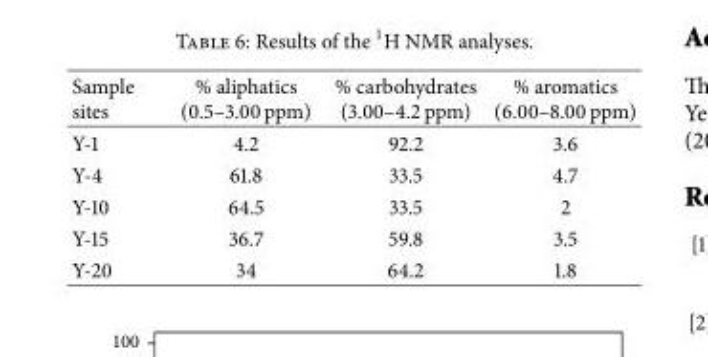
<table><thead><tr><td>Sample sites</td><td>% aliphatics (0.5–3.00 ppm)</td><td>% carbohydrates (3.00–4.2 ppm)</td><td>% aromatics (6.00–8.00 ppm)</td></tr></thead><tbody><tr><td>Y-1</td><td>4.2</td><td>92.2</td><td>3.6</td></tr><tr><td>Y-4</td><td>61.8</td><td>33.5</td><td>4.7</td></tr><tr><td>Y-10</td><td>64.5</td><td>33.5</td><td>2</td></tr><tr><td>Y-15</td><td>36.7</td><td>59.8</td><td>3.5</td></tr><tr><td>Y-20</td><td>34</td><td>64.2</td><td>1.8</td></tr></tbody></table>